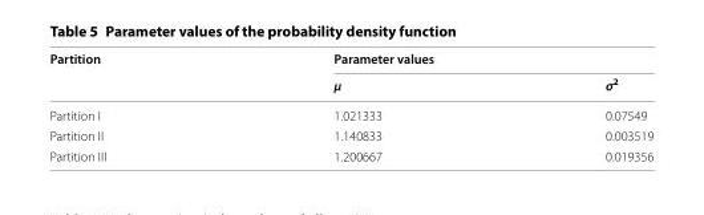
<table><thead><tr><td rowspan="2">Partition</td><td colspan="2">Parameter values</td></tr><tr><td>μ</td><td>σ<sup>2</sup></td></tr></thead><tbody><tr><td>Partition I</td><td>1.021333</td><td>0.07549</td></tr><tr><td>Partition II</td><td>1.140833</td><td>0.003519</td></tr><tr><td>Partition III</td><td>1.200667</td><td>0.019356</td></tr></tbody></table>